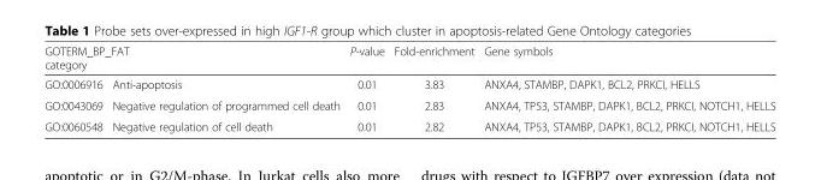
<table><thead><tr><td colspan="2">GOTERM_BP_FAT category</td><td rowspan="2">P-value 0.01</td><td rowspan="2">Fold-enrichment 3.83</td><td rowspan="2">Gene symbols ANXA4, STAMBP, DAPK1, BCL2, PRKCI, HELLS</td></tr><tr><td>GO:0006916</td><td>Anti-apoptosis</td></tr></thead><tbody><tr><td>GO:0043069</td><td>Negative regulation of programmed cell death</td><td>0.01</td><td>2.83</td><td>ANXA4, TP53, STAMBP, DAPK1, BCL2, PRKCI, NOTCH1, HELLS</td></tr><tr><td>GO:0060548</td><td>Negative regulation of cell death</td><td>0.01</td><td>2.82</td><td>ANXA4, TP53, STAMBP, DAPK1, BCL2, PRKCI, NOTCH1, HELLS</td></tr></tbody></table>